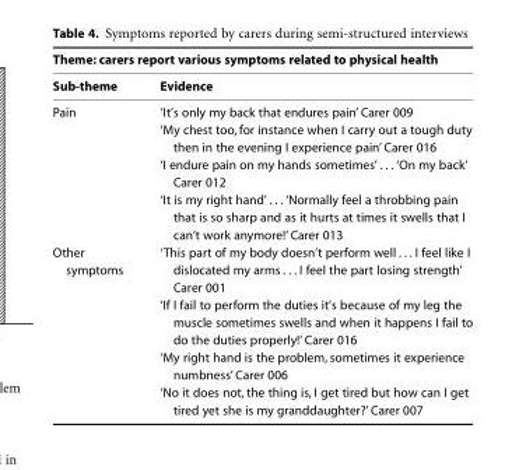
<table><thead><tr><td colspan="2">Theme: carers report various symptoms related to physical health</td></tr><tr><td>Sub-theme</td><td>Evidence</td></tr></thead><tbody><tr><td rowspan="4">Pain</td><td>‘It’s only my back that endures pain’ Carer 009</td></tr><tr><td>‘My chest too, for instance when I carry out a tough duty then in the evening I experience pain’ Carer 016</td></tr><tr><td>‘I endure pain on my hands sometimes’ . . . ‘On my back’ Carer 012</td></tr><tr><td>‘It is my right hand’ . . . ‘Normally feel a throbbing pain that is so sharp and as it hurts at times it swells that I can’t work anymore!’ Carer 013</td></tr><tr><td rowspan="4">Other symptoms</td><td>‘This part of my body doesn’t perform well . . . I feel like I dislocated my arms . . . I feel the part losing strength’ Carer 001</td></tr><tr><td>‘If I fail to perform the duties it’s because of my leg the muscle sometimes swells and when it happens I fail to do the duties properly!’ Carer 016</td></tr><tr><td>‘My right hand is the problem, sometimes it experience numbness’ Carer 006</td></tr><tr><td>‘No it does not, the thing is, I get tired but how can I get tired yet she is my granddaughter?’ Carer 007</td></tr></tbody></table>